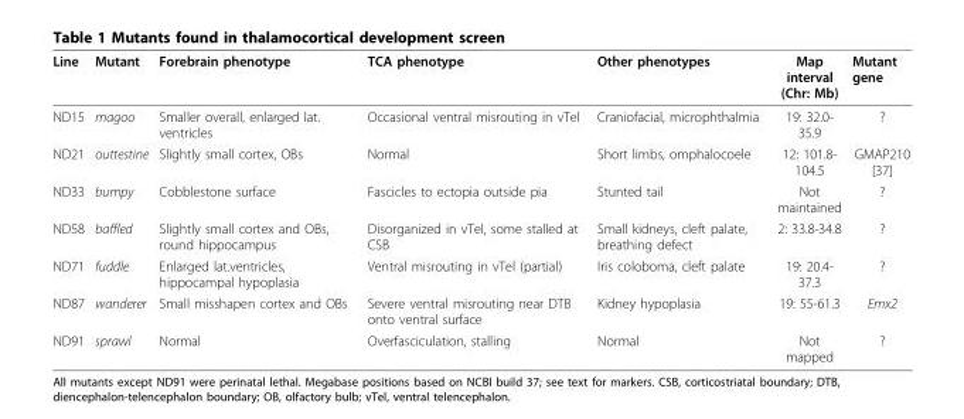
<table><thead><tr><td>Line</td><td>Mutant</td><td>Forebrain phenotype</td><td>TCA phenotype</td><td>Other phenotypes</td><td>Map interval (Chr: Mb)</td><td>Mutant gene</td></tr></thead><tbody><tr><td>ND15</td><td>magoo</td><td>Smaller overall, enlarged lat. ventricles</td><td>Occasional ventral misrouting in vTel</td><td>Craniofacial, microphthalmia</td><td>19: 32.0- 35.9</td><td>?</td></tr><tr><td>ND21</td><td>outtestine</td><td>Slightly small cortex, OBs</td><td>Normal</td><td>Short limbs, omphalocoele</td><td>12: 101.8- 104.5</td><td>GMAP210 [37]</td></tr><tr><td>ND33</td><td>bumpy</td><td>Cobblestone surface</td><td>Fascicles to ectopia outside pia</td><td>Stunted tail</td><td>Not maintained</td><td>?</td></tr><tr><td>ND58</td><td>baffled</td><td>Slightly small cortex and OBs, round hippocampus</td><td>Disorganized in vTel, some stalled at CSB</td><td>Small kidneys, cleft palate, breathing defect</td><td>2: 33.8-34.8</td><td>?</td></tr><tr><td>ND71</td><td>fuddle</td><td>Enlarged lat.ventricles, hippocampal hypoplasia</td><td>Ventral misrouting in vTel (partial)</td><td>Iris coloboma, cleft palate</td><td>19: 20.4- 37.3</td><td>?</td></tr><tr><td>ND87</td><td>wanderer</td><td>Small misshapen cortex and OBs</td><td>Severe ventral misrouting near DTB onto ventral surface</td><td>Kidney hypoplasia</td><td>19: 55-61.3</td><td>Emx2</td></tr><tr><td>ND91</td><td>sprawl</td><td>Normal</td><td>Overfasciculation, stalling</td><td>Normal</td><td>Not mapped</td><td>?</td></tr></tbody></table>